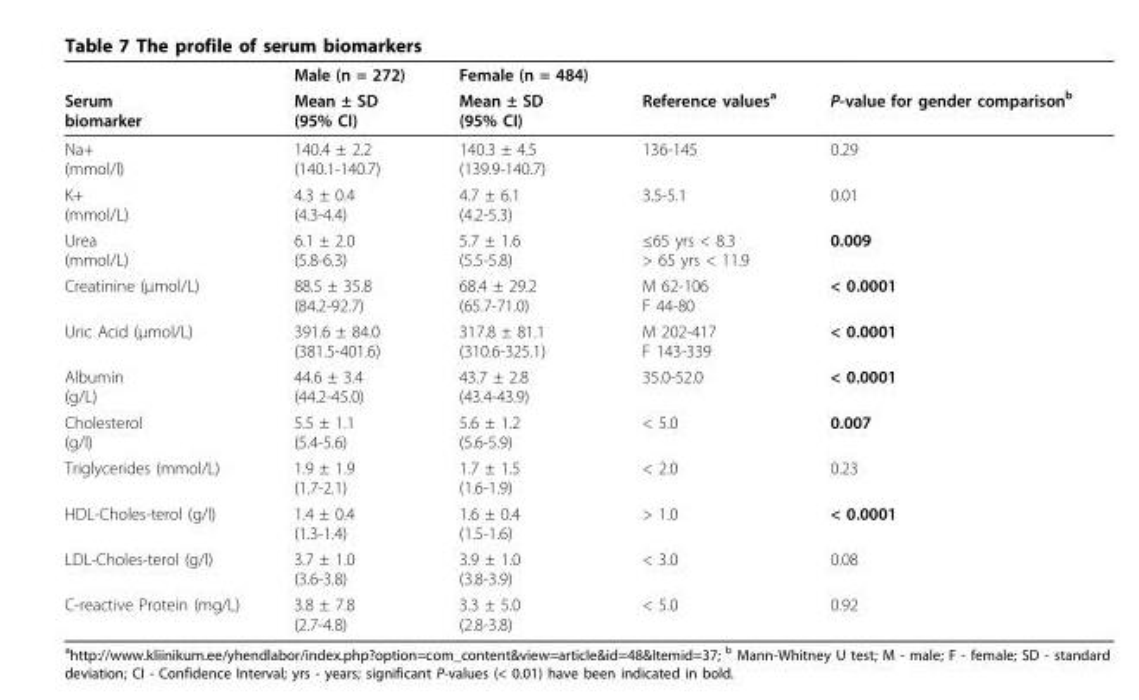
<table><thead><tr><td rowspan="2">Serum biomarker</td><td rowspan="2">Male (n = 272) Mean ± SD (95% CI)</td><td rowspan="2">Female (n = 484) Mean ± SD (95% CI)</td><td rowspan="2">Reference values<sup>a</sup></td><td rowspan="2">P-value for gender comparison<sup>b</sup></td></tr><tr></tr></thead><tbody><tr><td>Na+ (mmol/l)</td><td>140.4 ± 2.2 (140.1-140.7)</td><td>140.3 ± 4.5 (139.9-140.7)</td><td>136-145</td><td>0.29</td></tr><tr><td>K+ (mmol/L)</td><td>4.3 ± 0.4 (4.3-4.4)</td><td>4.7 ± 6.1 (4.2-5.3)</td><td>3.5-5.1</td><td>0.01</td></tr><tr><td>Urea (mmol/L)</td><td>6.1 ± 2.0 (5.8-6.3)</td><td>5.7 ± 1.6 (5.5-5.8)</td><td>≤65 yrs &lt; 8.3 &gt; 65 yrs &lt; 11.9</td><td>0.009</td></tr><tr><td>Creatinine (μmol/L)</td><td>88.5 ± 35.8 (84.2-92.7)</td><td>68.4 ± 29.2 (65.7-71.0)</td><td>M 62-106 F 44-80</td><td>&lt; 0.0001</td></tr><tr><td>Uric Acid (μmol/L)</td><td>391.6 ± 84.0 (381.5-401.6)</td><td>317.8 ± 81.1 (310.6-325.1)</td><td>M 202-417 F 143-339</td><td>&lt; 0.0001</td></tr><tr><td>Albumin (g/L)</td><td>44.6 ± 3.4 (44.2-45.0)</td><td>43.7 ± 2.8 (43.4-43.9)</td><td>35.0-52.0</td><td>&lt; 0.0001</td></tr><tr><td>Cholesterol (g/l)</td><td>5.5 ± 1.1 (5.4-5.6)</td><td>5.6 ± 1.2 (5.6-5.9)</td><td>&lt; 5.0</td><td>0.007</td></tr><tr><td>Triglycerides (mmol/L)</td><td>1.9 ± 1.9 (1.7-2.1)</td><td>1.7 ± 1.5 (1.6-1.9)</td><td>&lt; 2.0</td><td>0.23</td></tr><tr><td>HDL-Choles-terol (g/l)</td><td>1.4 ± 0.4 (1.3-1.4)</td><td>1.6 ± 0.4 (1.5-1.6)</td><td>&gt; 1.0</td><td>&lt; 0.0001</td></tr><tr><td>LDL-Choles-terol (g/l)</td><td>3.7 ± 1.0 (3.6-3.8)</td><td>3.9 ± 1.0 (3.8-3.9)</td><td>&lt; 3.0</td><td>0.08</td></tr><tr><td>C-reactive Protein (mg/L)</td><td>3.8 ± 7.8 (2.7-4.8)</td><td>3.3 ± 5.0 (2.8-3.8)</td><td>&lt; 5.0</td><td>0.92</td></tr></tbody></table>